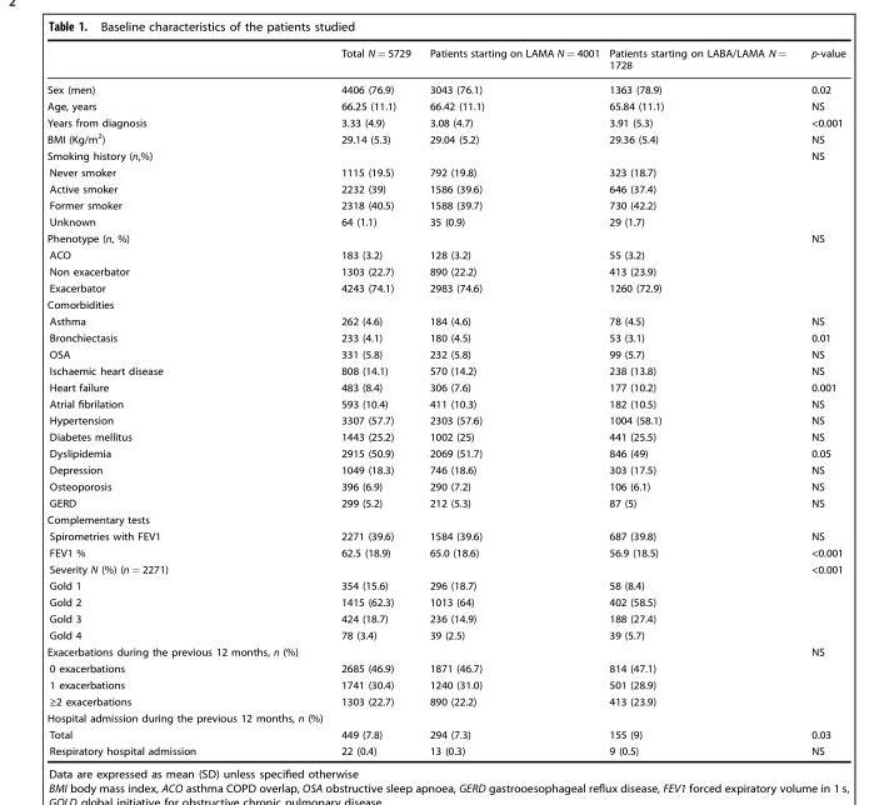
<table><thead><tr><td></td><td>Total N = 5729</td><td>Patients starting on LAMA N = 4001</td><td>Patients starting on LABA/LAMA N = 1728</td><td>p-value</td></tr></thead><tbody><tr><td>Sex (men)</td><td>4406 (76.9)</td><td>3043 (76.1)</td><td>1363 (78.9)</td><td>0.02</td></tr><tr><td>Age, years</td><td>66.25 (11.1)</td><td>66.42 (11.1)</td><td>65.84 (11.1)</td><td>NS</td></tr><tr><td>Years from diagnosis</td><td>3.33 (4.9)</td><td>3.08 (4.7)</td><td>3.91 (5.3)</td><td>&lt;0.001</td></tr><tr><td>BMI (Kg/m<sup>2</sup>)</td><td>29.14 (5.3)</td><td>29.04 (5.2)</td><td>29.36 (5.4)</td><td>NS</td></tr><tr><td>Smoking history (n,%)</td><td></td><td></td><td></td><td>NS</td></tr><tr><td>Never smoker</td><td>1115 (19.5)</td><td>792 (19.8)</td><td>323 (18.7)</td><td></td></tr><tr><td>Active smoker</td><td>2232 (39)</td><td>1586 (39.6)</td><td>646 (37.4)</td><td></td></tr><tr><td>Former smoker</td><td>2318 (40.5)</td><td>1588 (39.7)</td><td>730 (42.2)</td><td></td></tr><tr><td>Unknown</td><td>64 (1.1)</td><td>35 (0.9)</td><td>29 (1.7)</td><td></td></tr><tr><td>Phenotype (n, %)</td><td></td><td></td><td></td><td>NS</td></tr><tr><td>ACO</td><td>183 (3.2)</td><td>128 (3.2)</td><td>55 (3.2)</td><td></td></tr><tr><td>Non exacerbator</td><td>1303 (22.7)</td><td>890 (22.2)</td><td>413 (23.9)</td><td></td></tr><tr><td>Exacerbator</td><td>4243 (74.1)</td><td>2983 (74.6)</td><td>1260 (72.9)</td><td></td></tr><tr><td colspan="5">Comorbidities</td></tr><tr><td>Asthma</td><td>262 (4.6)</td><td>184 (4.6)</td><td>78 (4.5)</td><td>NS</td></tr><tr><td>Bronchiectasis</td><td>233 (4.1)</td><td>180 (4.5)</td><td>53 (3.1)</td><td>0.01</td></tr><tr><td>OSA</td><td>331 (5.8)</td><td>232 (5.8)</td><td>99 (5.7)</td><td>NS</td></tr><tr><td>Ischaemic heart disease</td><td>808 (14.1)</td><td>570 (14.2)</td><td>238 (13.8)</td><td>NS</td></tr><tr><td>Heart failure</td><td>483 (8.4)</td><td>306 (7.6)</td><td>177 (10.2)</td><td>0.001</td></tr><tr><td>Atrial fibrilation</td><td>593 (10.4)</td><td>411 (10.3)</td><td>182 (10.5)</td><td>NS</td></tr><tr><td>Hypertension</td><td>3307 (57.7)</td><td>2303 (57.6)</td><td>1004 (58.1)</td><td>NS</td></tr><tr><td>Diabetes mellitus</td><td>1443 (25.2)</td><td>1002 (25)</td><td>441 (25.5)</td><td>NS</td></tr><tr><td>Dyslipidemia</td><td>2915 (50.9)</td><td>2069 (51.7)</td><td>846 (49)</td><td>0.05</td></tr><tr><td>Depression</td><td>1049 (18.3)</td><td>746 (18.6)</td><td>303 (17.5)</td><td>NS</td></tr><tr><td>Osteoporosis</td><td>396 (6.9)</td><td>290 (7.2)</td><td>106 (6.1)</td><td>NS</td></tr><tr><td>GERD</td><td>299 (5.2)</td><td>212 (5.3)</td><td>87 (5)</td><td>NS</td></tr><tr><td colspan="5">Complementary tests</td></tr><tr><td>Spirometries with FEV1</td><td>2271 (39.6)</td><td>1584 (39.6)</td><td>687 (39.8)</td><td>NS</td></tr><tr><td>FEV1 %</td><td>62.5 (18.9)</td><td>65.0 (18.6)</td><td>56.9 (18.5)</td><td>&lt;0.001</td></tr><tr><td>Severity N (%) (n = 2271)</td><td></td><td></td><td></td><td>&lt;0.001</td></tr><tr><td>Gold 1</td><td>354 (15.6)</td><td>296 (18.7)</td><td>58 (8.4)</td><td></td></tr><tr><td>Gold 2</td><td>1415 (62.3)</td><td>1013 (64)</td><td>402 (58.5)</td><td></td></tr><tr><td>Gold 3</td><td>424 (18.7)</td><td>236 (14.9)</td><td>188 (27.4)</td><td></td></tr><tr><td>Gold 4</td><td>78 (3.4)</td><td>39 (2.5)</td><td>39 (5.7)</td><td></td></tr><tr><td>Exacerbations during the previous 12 months, n (%)</td><td></td><td></td><td></td><td>NS</td></tr><tr><td>0 exacerbations</td><td>2685 (46.9)</td><td>1871 (46.7)</td><td>814 (47.1)</td><td></td></tr><tr><td>1 exacerbations</td><td>1741 (30.4)</td><td>1240 (31.0)</td><td>501 (28.9)</td><td></td></tr><tr><td>≥2 exacerbations</td><td>1303 (22.7)</td><td>890 (22.2)</td><td>413 (23.9)</td><td></td></tr><tr><td colspan="5">Hospital admission during the previous 12 months, n (%)</td></tr><tr><td>Total</td><td>449 (7.8)</td><td>294 (7.3)</td><td>155 (9)</td><td>0.03</td></tr><tr><td>Respiratory hospital admission</td><td>22 (0.4)</td><td>13 (0.3)</td><td>9 (0.5)</td><td>NS</td></tr></tbody></table>